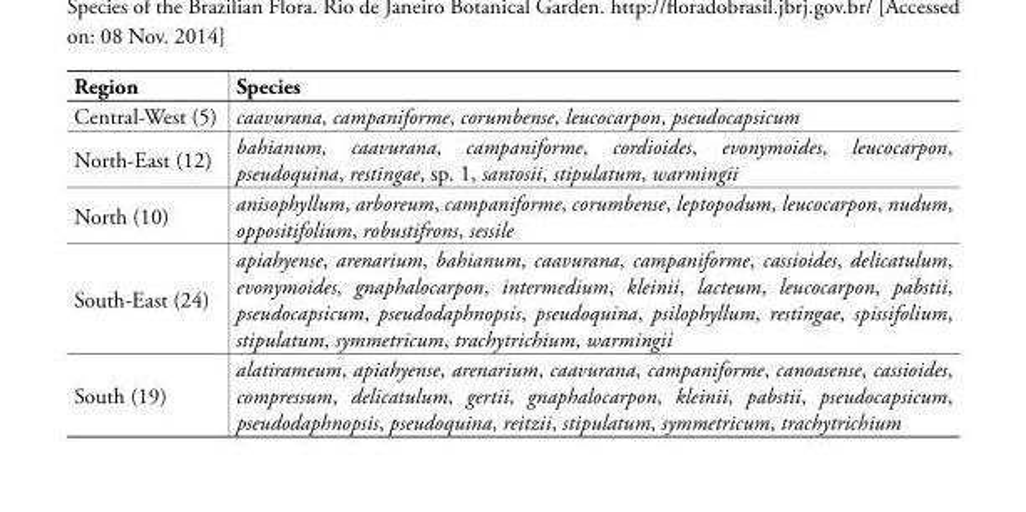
<table><thead><tr><td>Region</td><td>Species</td></tr></thead><tbody><tr><td>Central-West (5)</td><td>caavurana, campaniforme, corumbense, leucocarpon, pseudocapsicum</td></tr><tr><td>North-East (12)</td><td>bahianum, caavurana, campaniforme, cordioides, evonymoides, leucocarpon, pseudoquina, restingae, sp. 1, santosii, stipulatum, warmingii</td></tr><tr><td>North (10)</td><td>anisophyllum, arboreum, campaniforme, corumbense, leptopodum, leucocarpon, nudum, oppositifolium, robustifrons, sessile</td></tr><tr><td>South-East (24)</td><td>apiahyense, arenarium, bahianum, caavurana, campaniforme, cassioides, delicatulum, evonymoides, gnaphalocarpon, intermedium, kleinii, lacteum, leucocarpon, pabstii, pseudocapsicum, pseudodaphnopsis, pseudoquina, psilophyllum, restingae, spissifolium, stipulatum, symmetricum, trachytrichium, warmingii</td></tr><tr><td>South (19)</td><td>alatirameum, apiahyense, arenarium, caavurana, campaniforme, canoasense, cassioides, compressum, delicatulum, gertii, gnaphalocarpon, kleinii, pabstii, pseudocapsicum, pseudodaphnopsis, pseudoquina, reitzii, stipulatum, symmetricum, trachytrichium</td></tr></tbody></table>